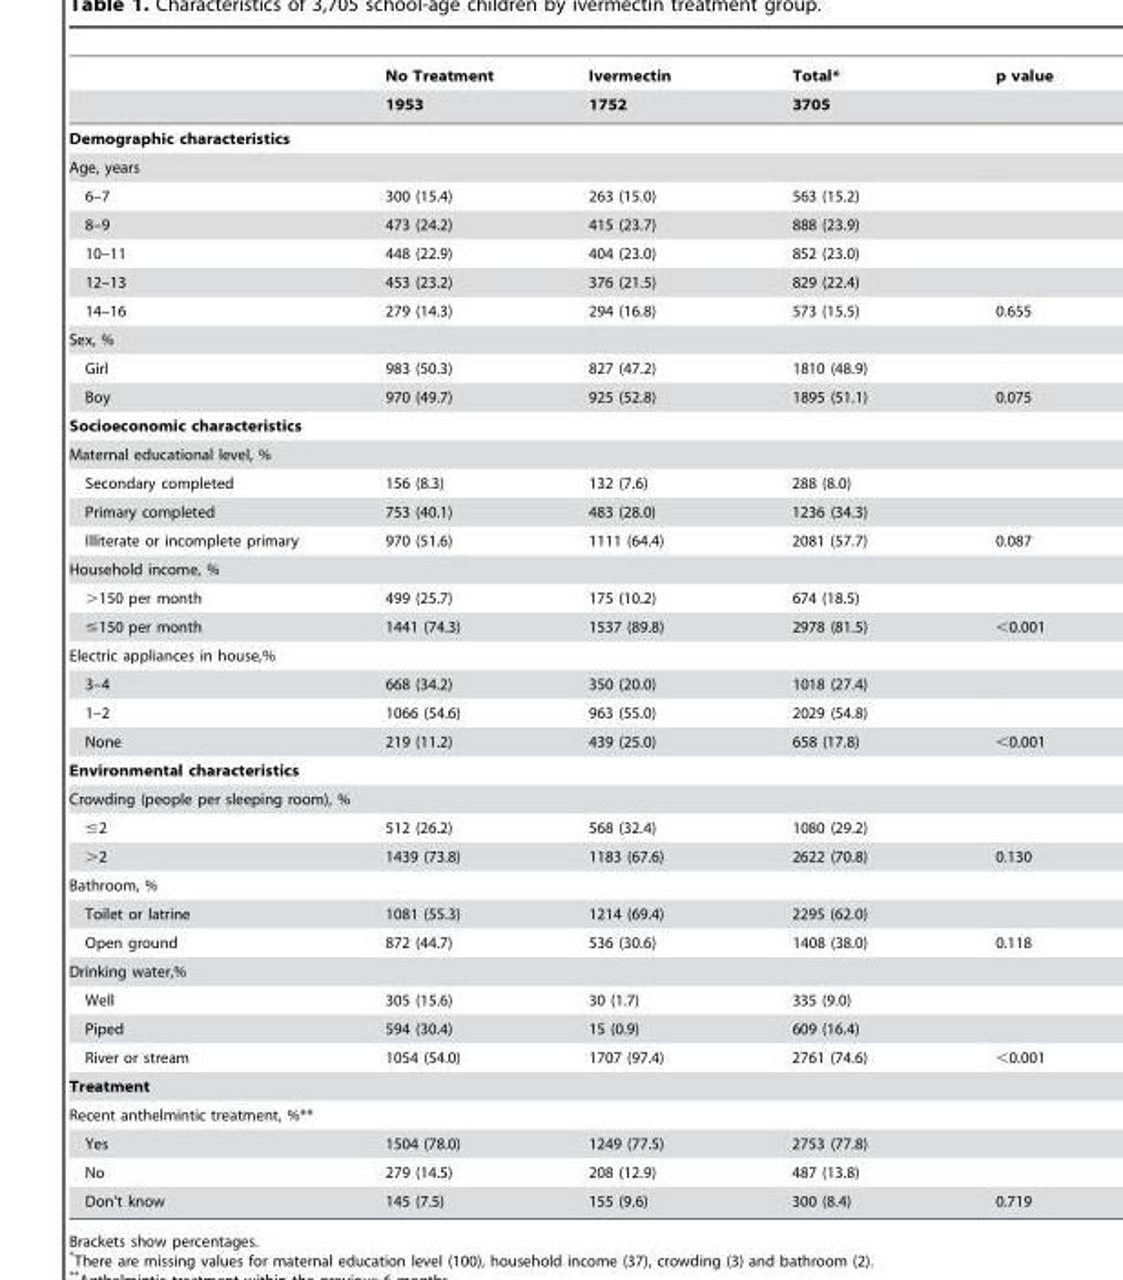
<table><thead><tr><td rowspan="2"></td><td rowspan="2">No Treatment 1953</td><td rowspan="2">Ivermectin 1752</td><td rowspan="2">Total* 3705</td><td rowspan="2">p value</td></tr><tr></tr></thead><tbody><tr><td colspan="5">Demographic characteristics</td></tr><tr><td colspan="5">Age, years</td></tr><tr><td>6–7</td><td>300 (15.4)</td><td>263 (15.0)</td><td>563 (15.2)</td><td></td></tr><tr><td>8–9</td><td>473 (24.2)</td><td>415 (23.7)</td><td>888 (23.9)</td><td></td></tr><tr><td>10–11</td><td>448 (22.9)</td><td>404 (23.0)</td><td>852 (23.0)</td><td></td></tr><tr><td>12–13</td><td>453 (23.2)</td><td>376 (21.5)</td><td>829 (22.4)</td><td></td></tr><tr><td>14–16</td><td>279 (14.3)</td><td>294 (16.8)</td><td>573 (15.5)</td><td>0.655</td></tr><tr><td colspan="5">Sex, %</td></tr><tr><td>Girl</td><td>983 (50.3)</td><td>827 (47.2)</td><td>1810 (48.9)</td><td></td></tr><tr><td>Boy</td><td>970 (49.7)</td><td>925 (52.8)</td><td>1895 (51.1)</td><td>0.075</td></tr><tr><td colspan="5">Socioeconomic characteristics</td></tr><tr><td colspan="5">Maternal educational level, %</td></tr><tr><td>Secondary completed</td><td>156 (8.3)</td><td>132 (7.6)</td><td>288 (8.0)</td><td></td></tr><tr><td>Primary completed</td><td>753 (40.1)</td><td>483 (28.0)</td><td>1236 (34.3)</td><td></td></tr><tr><td>Illiterate or incomplete primary</td><td>970 (51.6)</td><td>1111 (64.4)</td><td>2081 (57.7)</td><td>0.087</td></tr><tr><td colspan="5">Household income, %</td></tr><tr><td>&gt;150 per month</td><td>499 (25.7)</td><td>175 (10.2)</td><td>674 (18.5)</td><td></td></tr><tr><td>≤150 per month</td><td>1441 (74.3)</td><td>1537 (89.8)</td><td>2978 (81.5)</td><td>&lt;0.001</td></tr><tr><td colspan="5">Electric appliances in house,%</td></tr><tr><td>3–4</td><td>668 (34.2)</td><td>350 (20.0)</td><td>1018 (27.4)</td><td></td></tr><tr><td>1–2</td><td>1066 (54.6)</td><td>963 (55.0)</td><td>2029 (54.8)</td><td></td></tr><tr><td>None</td><td>219 (11.2)</td><td>439 (25.0)</td><td>658 (17.8)</td><td>&lt;0.001</td></tr><tr><td colspan="5">Environmental characteristics</td></tr><tr><td colspan="5">Crowding (people per sleeping room), %</td></tr><tr><td>≤2</td><td>512 (26.2)</td><td>568 (32.4)</td><td>1080 (29.2)</td><td></td></tr><tr><td>&gt;2</td><td>1439 (73.8)</td><td>1183 (67.6)</td><td>2622 (70.8)</td><td>0.130</td></tr><tr><td colspan="5">Bathroom, %</td></tr><tr><td>Toilet or latrine</td><td>1081 (55.3)</td><td>1214 (69.4)</td><td>2295 (62.0)</td><td></td></tr><tr><td>Open ground</td><td>872 (44.7)</td><td>536 (30.6)</td><td>1408 (38.0)</td><td>0.118</td></tr><tr><td colspan="5">Drinking water,%</td></tr><tr><td>Well</td><td>305 (15.6)</td><td>30 (1.7)</td><td>335 (9.0)</td><td></td></tr><tr><td>Piped</td><td>594 (30.4)</td><td>15 (0.9)</td><td>609 (16.4)</td><td></td></tr><tr><td>River or stream</td><td>1054 (54.0)</td><td>1707 (97.4)</td><td>2761 (74.6)</td><td>&lt;0.001</td></tr><tr><td colspan="5">Treatment</td></tr><tr><td colspan="5">Recent anthelmintic treatment, %**</td></tr><tr><td>Yes</td><td>1504 (78.0)</td><td>1249 (77.5)</td><td>2753 (77.8)</td><td></td></tr><tr><td>No</td><td>279 (14.5)</td><td>208 (12.9)</td><td>487 (13.8)</td><td></td></tr><tr><td>Don’t know</td><td>145 (7.5)</td><td>155 (9.6)</td><td>300 (8.4)</td><td>0.719</td></tr></tbody></table>